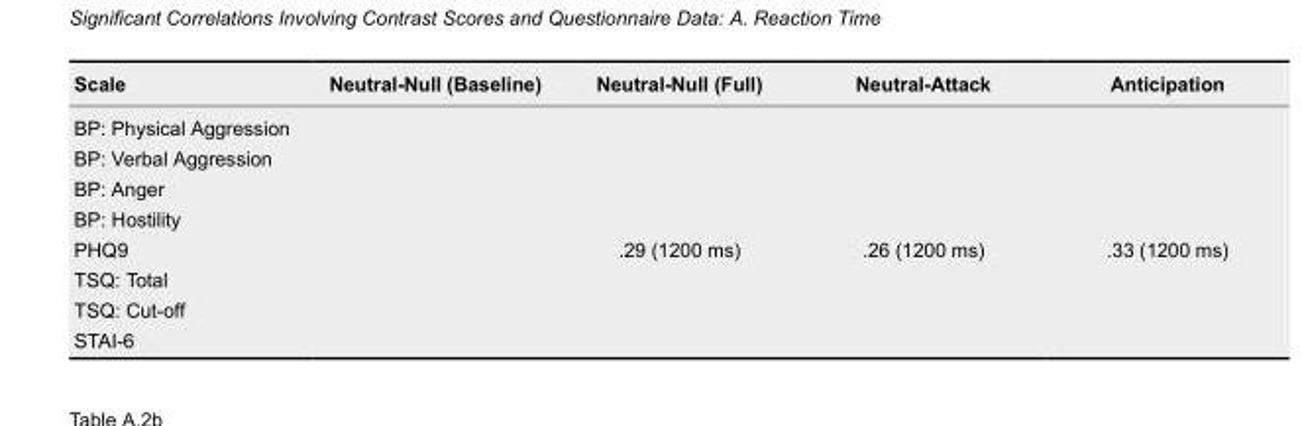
<table><thead><tr><td>Scale</td><td>Neutral-Null (Baseline)</td><td>Neutral-Null (Full)</td><td>Neutral-Attack</td><td>Anticipation</td></tr></thead><tbody><tr><td colspan="5">BP: Physical Aggression</td></tr><tr><td colspan="5">BP: Verbal Aggression</td></tr><tr><td colspan="5">BP: Anger</td></tr><tr><td colspan="5">BP: Hostility</td></tr><tr><td>PHQ9</td><td></td><td>.29 (1200 ms)</td><td>.26 (1200 ms)</td><td>.33 (1200 ms)</td></tr><tr><td colspan="5">TSQ: Total</td></tr><tr><td colspan="5">TSQ: Cut-off</td></tr><tr><td>STAI-6</td><td></td><td></td><td></td><td></td></tr></tbody></table>